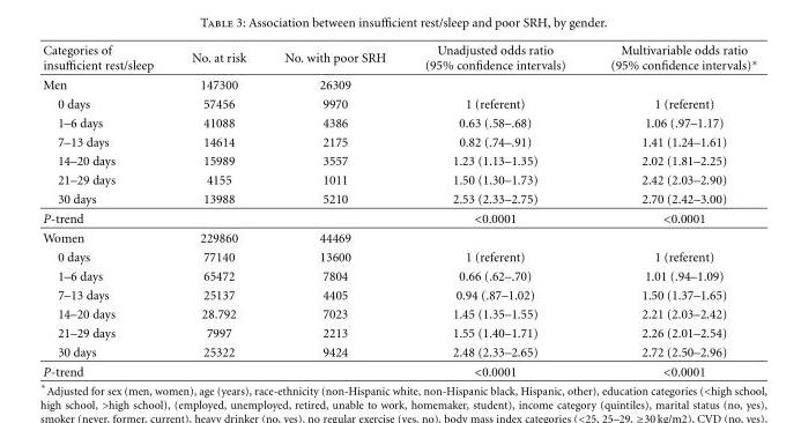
<table><thead><tr><td>Categories of insufficient rest/sleep</td><td>No. at risk</td><td>No. with poor SRH</td><td>Unadjusted odds ratio (95% confidence intervals)</td><td>Multivariable odds ratio (95% confidence intervals)∗</td></tr></thead><tbody><tr><td>Men</td><td>147300</td><td>26309</td><td></td><td></td></tr><tr><td>0 days</td><td>57456</td><td>9970</td><td>1 (referent)</td><td>1 (referent)</td></tr><tr><td>1–6 days</td><td>41088</td><td>4386</td><td>0.63 (.58–.68)</td><td>1.06 (.97–1.17)</td></tr><tr><td>7–13 days</td><td>14614</td><td>2175</td><td>0.82 (.74–.91)</td><td>1.41 (1.24–1.61)</td></tr><tr><td>14–20 days</td><td>15989</td><td>3557</td><td>1.23 (1.13–1.35)</td><td>2.02 (1.81–2.25)</td></tr><tr><td>21–29 days</td><td>4155</td><td>1011</td><td>1.50 (1.30–1.73)</td><td>2.42 (2.03–2.90)</td></tr><tr><td>30 days</td><td>13988</td><td>5210</td><td>2.53 (2.33–2.75)</td><td>2.70 (2.42–3.00)</td></tr><tr><td>P-trend</td><td></td><td></td><td>&lt;0.0001</td><td>&lt;0.0001</td></tr><tr><td>Women</td><td>229860</td><td>44469</td><td></td><td></td></tr><tr><td>0 days</td><td>77140</td><td>13600</td><td>1 (referent)</td><td>1 (referent)</td></tr><tr><td>1–6 days</td><td>65472</td><td>7804</td><td>0.66 (.62–.70)</td><td>1.01 (.94–1.09)</td></tr><tr><td>7–13 days</td><td>25137</td><td>4405</td><td>0.94 (.87–1.02)</td><td>1.50 (1.37–1.65)</td></tr><tr><td>14–20 days</td><td>28.792</td><td>7023</td><td>1.45 (1.35–1.55)</td><td>2.21 (2.03–2.42)</td></tr><tr><td>21–29 days</td><td>7997</td><td>2213</td><td>1.55 (1.40–1.71)</td><td>2.26 (2.01–2.54)</td></tr><tr><td>30 days</td><td>25322</td><td>9424</td><td>2.48 (2.33–2.65)</td><td>2.72 (2.50–2.96)</td></tr><tr><td>P-trend</td><td></td><td></td><td>&lt;0.0001</td><td>&lt;0.0001</td></tr></tbody></table>